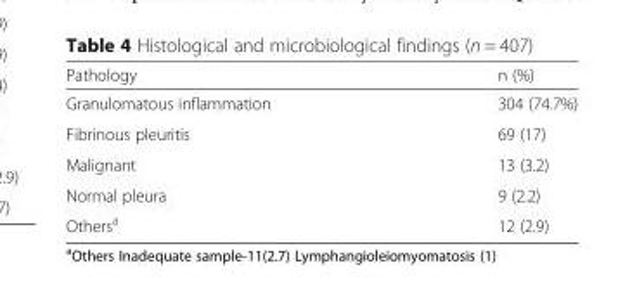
<table><thead><tr><td>Pathology</td><td>n (%)</td></tr></thead><tbody><tr><td>Granulomatous inflammation</td><td>304 (74.7%)</td></tr><tr><td>Fibrinous pleuritis</td><td>69 (17)</td></tr><tr><td>Malignant</td><td>13 (3.2)</td></tr><tr><td>Normal pleura</td><td>9 (2.2)</td></tr><tr><td>Others<sup>a</sup></td><td>12 (2.9)</td></tr></tbody></table>